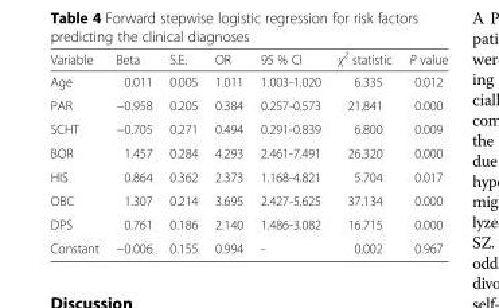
<table><thead><tr><td>Variable</td><td>Beta</td><td>S.E.</td><td>OR</td><td>95 % CI</td><td>χ<sup>2</sup> statistic</td><td>P value</td></tr></thead><tbody><tr><td>Age</td><td>0.011</td><td>0.005</td><td>1.011</td><td>1.003-1.020</td><td>6.335</td><td>0.012</td></tr><tr><td>PAR</td><td>−0.958</td><td>0.205</td><td>0.384</td><td>0.257-0.573</td><td>21.841</td><td>0.000</td></tr><tr><td>SCHT</td><td>−0.705</td><td>0.271</td><td>0.494</td><td>0.291-0.839</td><td>6.800</td><td>0.009</td></tr><tr><td>BOR</td><td>1.457</td><td>0.284</td><td>4.293</td><td>2.461-7.491</td><td>26.320</td><td>0.000</td></tr><tr><td>HIS</td><td>0.864</td><td>0.362</td><td>2.373</td><td>1.168-4.821</td><td>5.704</td><td>0.017</td></tr><tr><td>OBC</td><td>1.307</td><td>0.214</td><td>3.695</td><td>2.427-5.625</td><td>37.134</td><td>0.000</td></tr><tr><td>DPS</td><td>0.761</td><td>0.186</td><td>2.140</td><td>1.486-3.082</td><td>16.715</td><td>0.000</td></tr><tr><td>Constant</td><td>−0.006</td><td>0.155</td><td>0.994</td><td>-</td><td>0.002</td><td>0.967</td></tr></tbody></table>